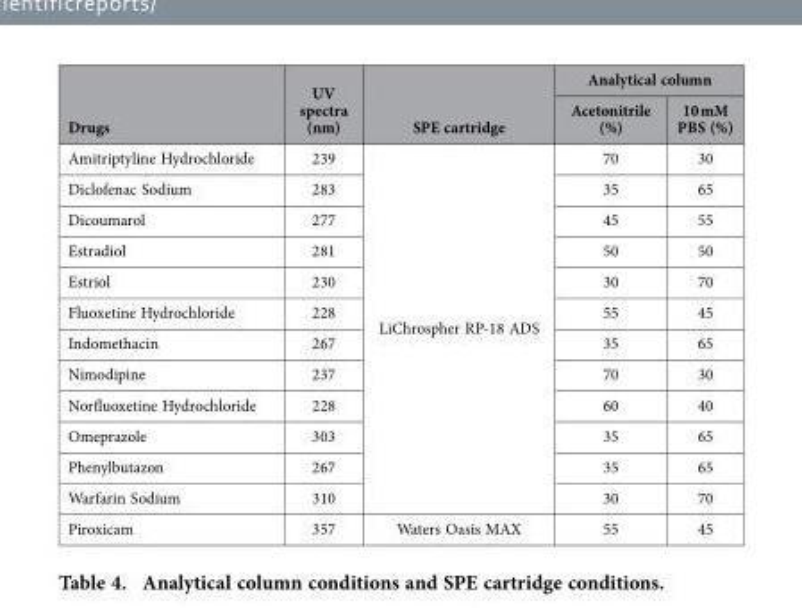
<table><thead><tr><td rowspan="2">Drugs</td><td rowspan="2">UV spectra (nm)</td><td rowspan="2">SPE cartridge</td><td colspan="2">Analytical column</td></tr><tr><td>Acetonitrile (%)</td><td>10 mM PBS (%)</td></tr></thead><tbody><tr><td>Amitriptyline Hydrochloride</td><td>239</td><td rowspan="12">LiChrospher RP-18 ADS</td><td>70</td><td>30</td></tr><tr><td>Diclofenac Sodium</td><td>283</td><td>35</td><td>65</td></tr><tr><td>Dicoumarol</td><td>277</td><td>45</td><td>55</td></tr><tr><td>Estradiol</td><td>281</td><td>50</td><td>50</td></tr><tr><td>Estriol</td><td>230</td><td>30</td><td>70</td></tr><tr><td>Fluoxetine Hydrochloride</td><td>228</td><td>55</td><td>45</td></tr><tr><td>Indomethacin</td><td>267</td><td>35</td><td>65</td></tr><tr><td>Nimodipine</td><td>237</td><td>70</td><td>30</td></tr><tr><td>Norfluoxetine Hydrochloride</td><td>228</td><td>60</td><td>40</td></tr><tr><td>Omeprazole</td><td>303</td><td>35</td><td>65</td></tr><tr><td>Phenylbutazon</td><td>267</td><td>35</td><td>65</td></tr><tr><td>Warfarin Sodium</td><td>310</td><td>30</td><td>70</td></tr><tr><td>Piroxicam</td><td>357</td><td>Waters Oasis MAX</td><td>55</td><td>45</td></tr></tbody></table>